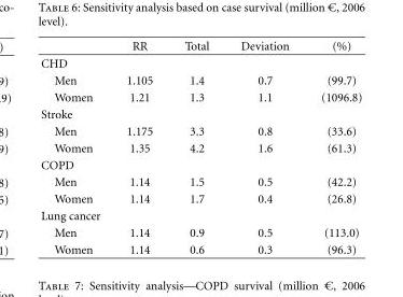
<table><thead><tr><td></td><td>RR</td><td>Total</td><td>Deviation</td><td>(%)</td></tr></thead><tbody><tr><td colspan="5">CHD</td></tr><tr><td>Men</td><td>1.105</td><td>1.4</td><td>0.7</td><td>(99.7)</td></tr><tr><td>Women</td><td>1.21</td><td>1.3</td><td>1.1</td><td>(1096.8)</td></tr><tr><td colspan="5">Stroke</td></tr><tr><td>Men</td><td>1.175</td><td>3.3</td><td>0.8</td><td>(33.6)</td></tr><tr><td>Women</td><td>1.35</td><td>4.2</td><td>1.6</td><td>(61.3)</td></tr><tr><td colspan="5">COPD</td></tr><tr><td>Men</td><td>1.14</td><td>1.5</td><td>0.5</td><td>(42.2)</td></tr><tr><td>Women</td><td>1.14</td><td>1.7</td><td>0.4</td><td>(26.8)</td></tr><tr><td colspan="5">Lung cancer</td></tr><tr><td>Men</td><td>1.14</td><td>0.9</td><td>0.5</td><td>(113.0)</td></tr><tr><td>Women</td><td>1.14</td><td>0.6</td><td>0.3</td><td>(96.3)</td></tr></tbody></table>